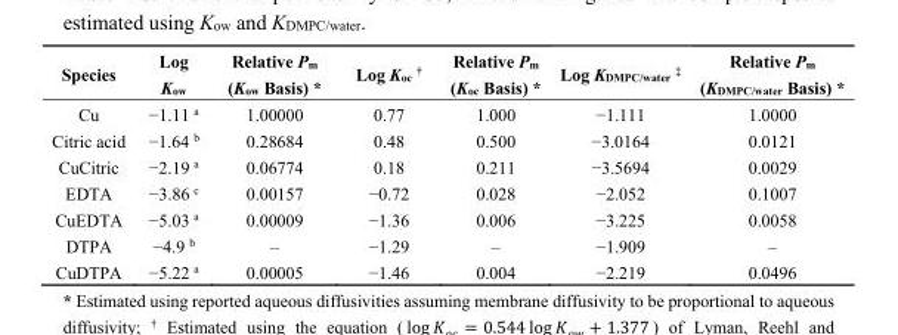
<table><thead><tr><td>Species</td><td>Log K<sub>ow</sub></td><td>Relative P<sub>m</sub> (K<sub>ow</sub> Basis) *</td><td>Log K<sub>oc</sub> <sup>†</sup></td><td>Relative P<sub>m</sub> (K<sub>oc</sub> Basis) *</td><td>Log K<sub>DMPC/water</sub> <sup>‡</sup></td><td>Relative P<sub>m</sub> (K<sub>DMPC/water</sub> Basis) *</td></tr></thead><tbody><tr><td>Cu</td><td>−1.11 <sup>a</sup></td><td>1.00000</td><td>0.77</td><td>1.000</td><td>−1.111</td><td>1.0000</td></tr><tr><td>Citric acid</td><td>−1.64 <sup>b</sup></td><td>0.28684</td><td>0.48</td><td>0.500</td><td>−3.0164</td><td>0.0121</td></tr><tr><td>CuCitric</td><td>−2.19 <sup>a</sup></td><td>0.06774</td><td>0.18</td><td>0.211</td><td>−3.5694</td><td>0.0029</td></tr><tr><td>EDTA</td><td>−3.86 <sup>c</sup></td><td>0.00157</td><td>−0.72</td><td>0.028</td><td>−2.052</td><td>0.1007</td></tr><tr><td>CuEDTA</td><td>−5.03 <sup>a</sup></td><td>0.00009</td><td>−1.36</td><td>0.006</td><td>−3.225</td><td>0.0058</td></tr><tr><td>DTPA</td><td>−4.9 <sup>b</sup></td><td>–</td><td>−1.29</td><td>–</td><td>−1.909</td><td>–</td></tr><tr><td>CuDTPA</td><td>−5.22 <sup>a</sup></td><td>0.00005</td><td>−1.46</td><td>0.004</td><td>−2.219</td><td>0.0496</td></tr></tbody></table>